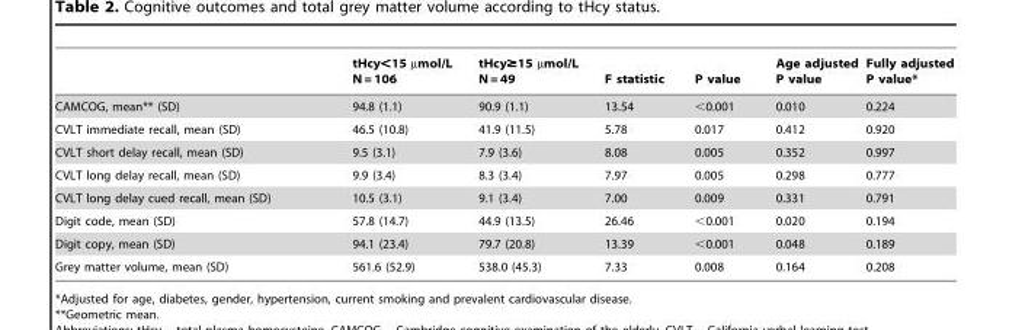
<table><thead><tr><td></td><td>tHcy&lt;15 µmol/L N = 106</td><td>tHcy≥15 µmol/L N = 49</td><td>F statistic</td><td>P value</td><td>Age adjusted P value</td><td>Fully adjusted P value*</td></tr></thead><tbody><tr><td>CAMCOG, mean** (SD)</td><td>94.8 (1.1)</td><td>90.9 (1.1)</td><td>13.54</td><td>&lt;0.001</td><td>0.010</td><td>0.224</td></tr><tr><td>CVLT immediate recall, mean (SD)</td><td>46.5 (10.8)</td><td>41.9 (11.5)</td><td>5.78</td><td>0.017</td><td>0.412</td><td>0.920</td></tr><tr><td>CVLT short delay recall, mean (SD)</td><td>9.5 (3.1)</td><td>7.9 (3.6)</td><td>8.08</td><td>0.005</td><td>0.352</td><td>0.997</td></tr><tr><td>CVLT long delay recall, mean (SD)</td><td>9.9 (3.4)</td><td>8.3 (3.4)</td><td>7.97</td><td>0.005</td><td>0.298</td><td>0.777</td></tr><tr><td>CVLT long delay cued recall, mean (SD)</td><td>10.5 (3.1)</td><td>9.1 (3.4)</td><td>7.00</td><td>0.009</td><td>0.331</td><td>0.791</td></tr><tr><td>Digit code, mean (SD)</td><td>57.8 (14.7)</td><td>44.9 (13.5)</td><td>26.46</td><td>&lt;0.001</td><td>0.020</td><td>0.194</td></tr><tr><td>Digit copy, mean (SD)</td><td>94.1 (23.4)</td><td>79.7 (20.8)</td><td>13.39</td><td>&lt;0.001</td><td>0.048</td><td>0.189</td></tr><tr><td>Grey matter volume, mean (SD)</td><td>561.6 (52.9)</td><td>538.0 (45.3)</td><td>7.33</td><td>0.008</td><td>0.164</td><td>0.208</td></tr></tbody></table>